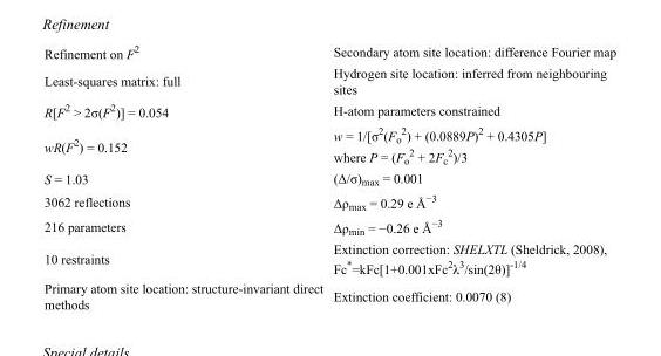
<table><tbody><tr><td>Refinement on F<sup>2</sup></td><td>Secondary atom site location: difference Fourier map</td></tr><tr><td>Least-squares matrix: full</td><td>Hydrogen site location: inferred from neighbouring sites</td></tr><tr><td>R[F<sup>2</sup> &gt; 2σ(F<sup>2</sup>)] = 0.054</td><td>H-atom parameters constrained</td></tr><tr><td>wR(F<sup>2</sup>) = 0.152</td><td>w = 1/[σ<sup>2</sup>(F<sub>o</sub> <sup>2</sup>) + (0.0889P)<sup>2</sup> + 0.4305P] where P = (F<sub>o</sub> <sup>2</sup> + 2F<sub>c</sub> <sup>2</sup>)/3</td></tr><tr><td>S = 1.03</td><td>(Δ/σ)<sub>max</sub> = 0.001</td></tr><tr><td>3062 reflections</td><td>Δρ<sub>max</sub> = 0.29 e Å<sup>−3</sup></td></tr><tr><td>216 parameters</td><td>Δρ<sub>min</sub> = −0.26 e Å<sup>−3</sup></td></tr><tr><td>10 restraints</td><td>Extinction correction: SHELXTL (Sheldrick, 2008), Fc*=kFc[1+0.001xFc<sup>2</sup>λ<sup>3</sup>/sin(2θ)]<sup>-1/4</sup></td></tr><tr><td>Primary atom site location: structure-invariant direct methods</td><td>Extinction coefficient: 0.0070 (8)</td></tr></tbody></table>